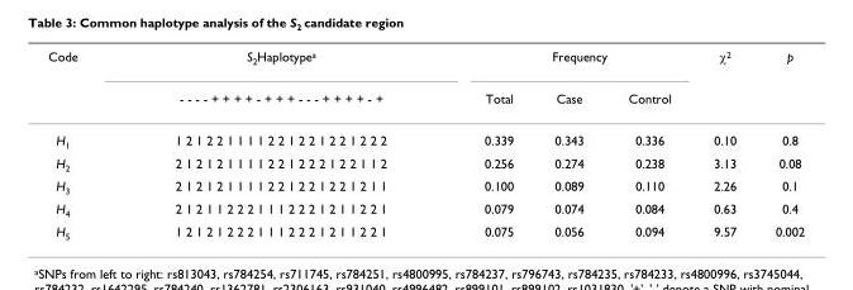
<table><thead><tr><td rowspan="2">Code</td><td rowspan="2">S<sub>2</sub>Haplotype<sup>a</sup> - - - - + + + + - + + + - - - + + + + - +</td><td colspan="3">Frequency</td><td rowspan="2">χ<sup>2</sup></td><td rowspan="2">p</td></tr><tr><td>Total</td><td>Case</td><td>Control</td></tr></thead><tbody><tr><td>H<sub>1</sub></td><td>1 2 1 2 2 1 1 1 1 2 2 1 2 2 1 2 2 1 2 2 2</td><td>0.339</td><td>0.343</td><td>0.336</td><td>0.10</td><td>0.8</td></tr><tr><td>H<sub>2</sub></td><td>2 1 2 1 2 1 1 1 1 2 2 1 2 2 2 1 2 2 1 1 2</td><td>0.256</td><td>0.274</td><td>0.238</td><td>3.13</td><td>0.08</td></tr><tr><td>H<sub>3</sub></td><td>2 1 2 1 2 1 1 1 1 2 2 1 2 2 1 2 2 1 2 1 1</td><td>0.100</td><td>0.089</td><td>0.110</td><td>2.26</td><td>0.1</td></tr><tr><td>H<sub>4</sub></td><td>2 1 2 1 1 2 2 2 1 1 1 2 2 2 1 2 1 1 2 2 1</td><td>0.079</td><td>0.074</td><td>0.084</td><td>0.63</td><td>0.4</td></tr><tr><td>H<sub>5</sub></td><td>1 2 1 2 1 2 2 2 1 1 1 2 2 2 1 2 1 1 2 2 1</td><td>0.075</td><td>0.056</td><td>0.094</td><td>9.57</td><td>0.002</td></tr></tbody></table>